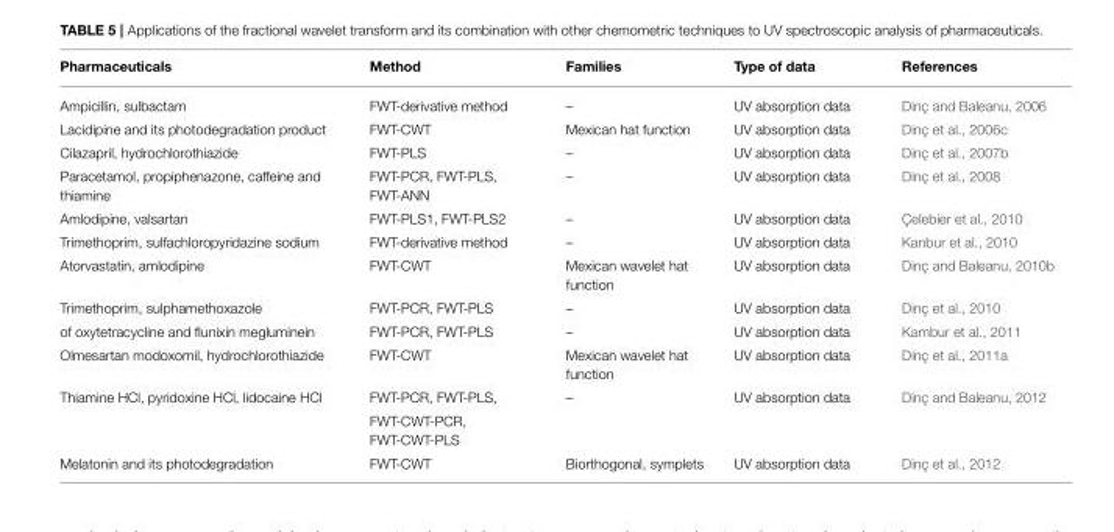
<table><thead><tr><td>Pharmaceuticals</td><td>Method</td><td>Families</td><td>Type of data</td><td>References</td></tr></thead><tbody><tr><td>Ampicillin, sulbactam</td><td>FWT-derivative method</td><td>–</td><td>UV absorption data</td><td>Dinç and Baleanu, 2006</td></tr><tr><td>Lacidipine and its photodegradation product</td><td>FWT-CWT</td><td>Mexican hat function</td><td>UV absorption data</td><td>Dinç et al., 2006c</td></tr><tr><td>Cilazapril, hydrochlorothiazide</td><td>FWT-PLS</td><td>–</td><td>UV absorption data</td><td>Dinç et al., 2007b</td></tr><tr><td>Paracetamol, propiphenazone, caffeine and thiamine</td><td>FWT-PCR, FWT-PLS, FWT-ANN</td><td>–</td><td>UV absorption data</td><td>Dinç et al., 2008</td></tr><tr><td>Amlodipine, valsartan</td><td>FWT-PLS1, FWT-PLS2</td><td>–</td><td>UV absorption data</td><td>Çelebier et al., 2010</td></tr><tr><td>Trimethoprim, sulfachloropyridazine sodium</td><td>FWT-derivative method</td><td>–</td><td>UV absorption data</td><td>Kanbur et al., 2010</td></tr><tr><td>Atorvastatin, amlodipine</td><td>FWT-CWT</td><td>Mexican wavelet hat function</td><td>UV absorption data</td><td>Dinç and Baleanu, 2010b</td></tr><tr><td>Trimethoprim, sulphamethoxazole</td><td>FWT-PCR, FWT-PLS</td><td>–</td><td>UV absorption data</td><td>Dinç et al., 2010</td></tr><tr><td>of oxytetracycline and flunixin megluminein</td><td>FWT-PCR, FWT-PLS</td><td>–</td><td>UV absorption data</td><td>Kambur et al., 2011</td></tr><tr><td>Olmesartan modoxomil, hydrochlorothiazide</td><td>FWT-CWT</td><td>Mexican wavelet hat function</td><td>UV absorption data</td><td>Dinç et al., 2011a</td></tr><tr><td rowspan="2">Thiamine HCl, pyridoxine HCl, lidocaine HCl</td><td>FWT-PCR, FWT-PLS,</td><td>–</td><td>UV absorption data</td><td>Dinç and Baleanu, 2012</td></tr><tr><td>FWT-CWT-PCR, FWT-CWT-PLS</td><td></td><td></td><td></td></tr><tr><td>Melatonin and its photodegradation</td><td>FWT-CWT</td><td>Biorthogonal, symplets</td><td>UV absorption data</td><td>Dinç et al., 2012</td></tr></tbody></table>